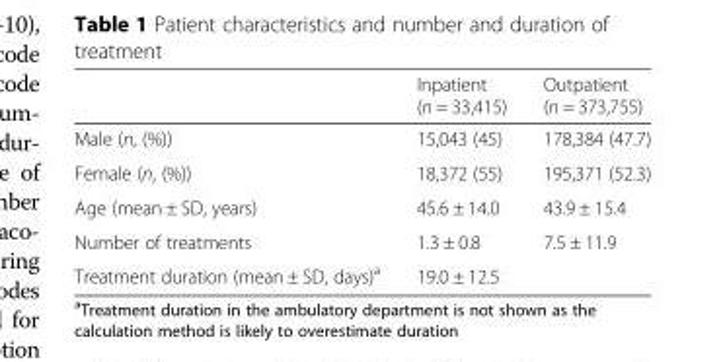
<table><thead><tr><td></td><td>Inpatient (n = 33,415)</td><td>Outpatient (n = 373,755)</td></tr></thead><tbody><tr><td>Male (n, (%))</td><td>15,043 (45)</td><td>178,384 (47.7)</td></tr><tr><td>Female (n, (%))</td><td>18,372 (55)</td><td>195,371 (52.3)</td></tr><tr><td>Age (mean ± SD, years)</td><td>45.6 ± 14.0</td><td>43.9 ± 15.4</td></tr><tr><td>Number of treatments</td><td>1.3 ± 0.8</td><td>7.5 ± 11.9</td></tr><tr><td>Treatment duration (mean ± SD, days)<sup>a</sup></td><td>19.0 ± 12.5</td><td></td></tr></tbody></table>